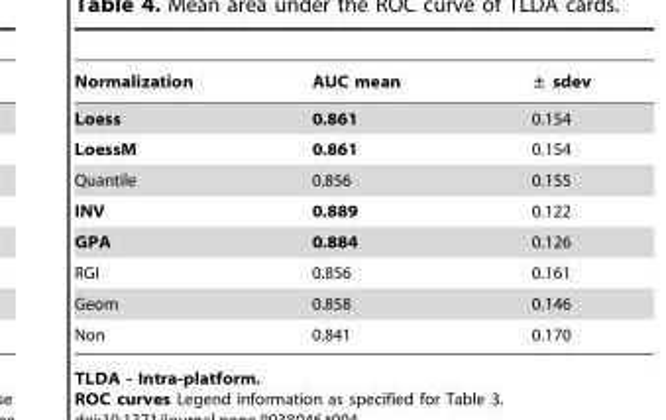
<table><thead><tr><td>Normalization</td><td>AUC mean</td><td>± sdev</td></tr></thead><tbody><tr><td>Loess</td><td>0.861</td><td>0.154</td></tr><tr><td>LoessM</td><td>0.861</td><td>0.154</td></tr><tr><td>Quantile</td><td>0.856</td><td>0.155</td></tr><tr><td>INV</td><td>0.889</td><td>0.122</td></tr><tr><td>GPA</td><td>0.884</td><td>0.126</td></tr><tr><td>RGI</td><td>0.856</td><td>0.161</td></tr><tr><td>Geom</td><td>0.858</td><td>0.146</td></tr><tr><td>Non</td><td>0.841</td><td>0.170</td></tr></tbody></table>